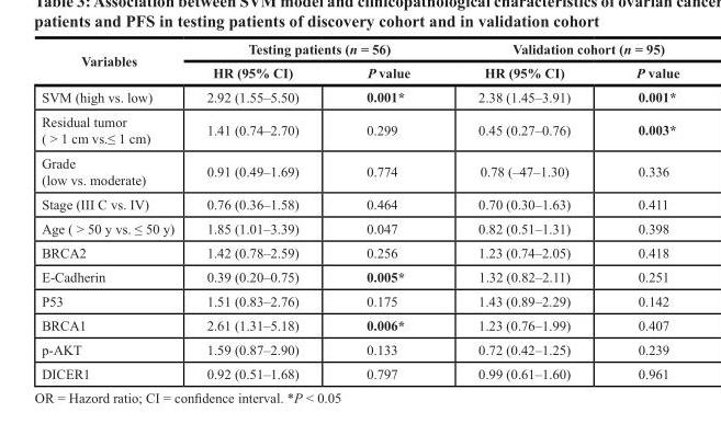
<table><thead><tr><td rowspan="2">Variables</td><td colspan="2">Testing patients (n = 56)</td><td colspan="2">Validation cohort (n = 95)</td></tr><tr><td>HR (95% CI)</td><td>P value</td><td>HR (95% CI)</td><td>P value</td></tr></thead><tbody><tr><td>SVM (high vs. low)</td><td>2.92 (1.55–5.50)</td><td>0.001*</td><td>2.38 (1.45–3.91)</td><td>0.001*</td></tr><tr><td>Residual tumor ( &gt; 1 cm vs.≤ 1 cm)</td><td>1.41 (0.74–2.70)</td><td>0.299</td><td>0.45 (0.27–0.76)</td><td>0.003*</td></tr><tr><td>Grade (low vs. moderate)</td><td>0.91 (0.49–1.69)</td><td>0.774</td><td>0.78 (–47–1.30)</td><td>0.336</td></tr><tr><td>Stage (III C vs. IV)</td><td>0.76 (0.36–1.58)</td><td>0.464</td><td>0.70 (0.30–1.63)</td><td>0.411</td></tr><tr><td>Age ( &gt; 50 y vs. ≤ 50 y)</td><td>1.85 (1.01–3.39)</td><td>0.047</td><td>0.82 (0.51–1.31)</td><td>0.398</td></tr><tr><td>BRCA2</td><td>1.42 (0.78–2.59)</td><td>0.256</td><td>1.23 (0.74–2.05)</td><td>0.418</td></tr><tr><td>E-Cadherin</td><td>0.39 (0.20–0.75)</td><td>0.005*</td><td>1.32 (0.82–2.11)</td><td>0.251</td></tr><tr><td>P53</td><td>1.51 (0.83–2.76)</td><td>0.175</td><td>1.43 (0.89–2.29)</td><td>0.142</td></tr><tr><td>BRCA1</td><td>2.61 (1.31–5.18)</td><td>0.006*</td><td>1.23 (0.76–1.99)</td><td>0.407</td></tr><tr><td>p-AKT</td><td>1.59 (0.87–2.90)</td><td>0.133</td><td>0.72 (0.42–1.25)</td><td>0.239</td></tr><tr><td>DICER1</td><td>0.92 (0.51–1.68)</td><td>0.797</td><td>0.99 (0.61–1.60)</td><td>0.961</td></tr></tbody></table>